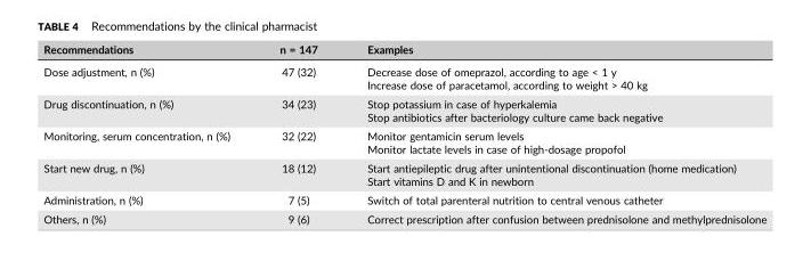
<table><thead><tr><td>Recommendations</td><td>n = 147</td><td>Examples</td></tr></thead><tbody><tr><td rowspan="2">Dose adjustment, n (%)</td><td rowspan="2">47 (32)</td><td>Decrease dose of omeprazol, according to age &lt; 1 y</td></tr><tr><td>Increase dose of paracetamol, according to weight &gt; 40 kg</td></tr><tr><td rowspan="2">Drug discontinuation, n (%)</td><td rowspan="2">34 (23)</td><td>Stop potassium in case of hyperkalemia</td></tr><tr><td>Stop antibiotics after bacteriology culture came back negative</td></tr><tr><td rowspan="2">Monitoring, serum concentration, n (%)</td><td rowspan="2">32 (22)</td><td>Monitor gentamicin serum levels</td></tr><tr><td>Monitor lactate levels in case of high‐dosage propofol</td></tr><tr><td rowspan="2">Start new drug, n (%)</td><td rowspan="2">18 (12)</td><td>Start antiepileptic drug after unintentional discontinuation (home medication)</td></tr><tr><td>Start vitamins D and K in newborn</td></tr><tr><td>Administration, n (%)</td><td>7 (5)</td><td>Switch of total parenteral nutrition to central venous catheter</td></tr><tr><td>Others, n (%)</td><td>9 (6)</td><td>Correct prescription after confusion between prednisolone and methylprednisolone</td></tr></tbody></table>